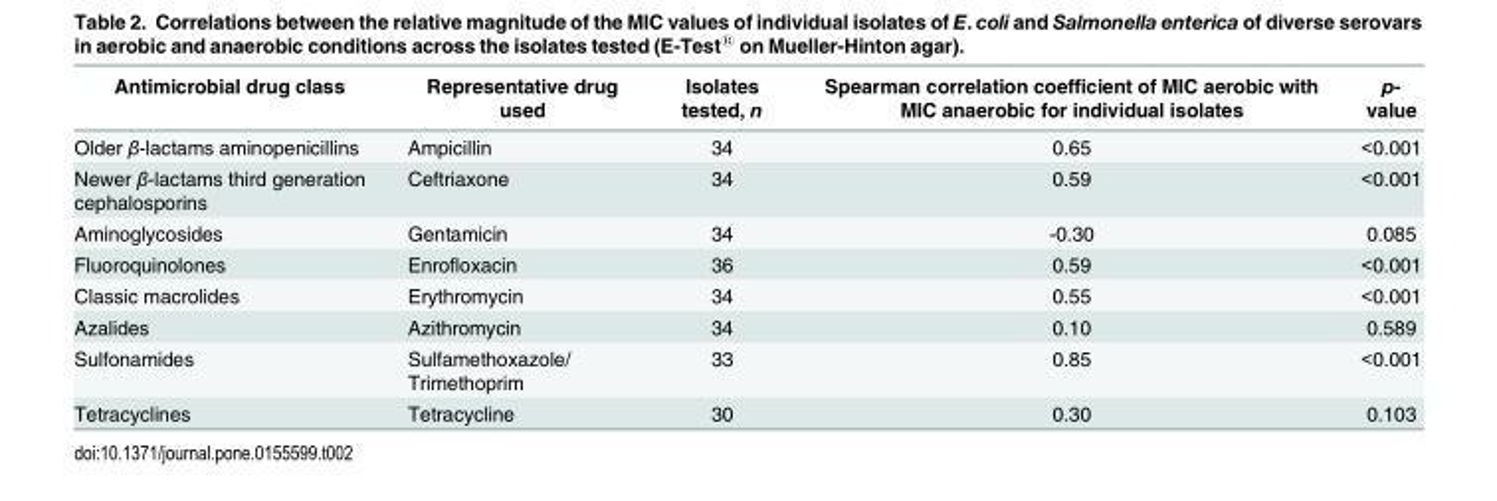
<table><thead><tr><td>Antimicrobial drug class</td><td>Representative drug used</td><td>Isolates tested, n</td><td>Spearman correlation coefficient of MIC aerobic with MIC anaerobic for individual isolates</td><td>p- value</td></tr></thead><tbody><tr><td>Older β-lactams aminopenicillins</td><td>Ampicillin</td><td>34</td><td>0.65</td><td>&lt;0.001</td></tr><tr><td>Newer β-lactams third generation cephalosporins</td><td>Ceftriaxone</td><td>34</td><td>0.59</td><td>&lt;0.001</td></tr><tr><td>Aminoglycosides</td><td>Gentamicin</td><td>34</td><td>-0.30</td><td>0.085</td></tr><tr><td>Fluoroquinolones</td><td>Enrofloxacin</td><td>36</td><td>0.59</td><td>&lt;0.001</td></tr><tr><td>Classic macrolides</td><td>Erythromycin</td><td>34</td><td>0.55</td><td>&lt;0.001</td></tr><tr><td>Azalides</td><td>Azithromycin</td><td>34</td><td>0.10</td><td>0.589</td></tr><tr><td>Sulfonamides</td><td>Sulfamethoxazole/ Trimethoprim</td><td>33</td><td>0.85</td><td>&lt;0.001</td></tr><tr><td>Tetracyclines</td><td>Tetracycline</td><td>30</td><td>0.30</td><td>0.103</td></tr></tbody></table>